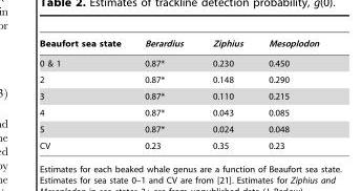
<table><thead><tr><td>Beaufort sea state</td><td>Berardius</td><td>Ziphius</td><td>Mesoplodon</td></tr></thead><tbody><tr><td>0 &amp; 1</td><td>0.87*</td><td>0.230</td><td>0.450</td></tr><tr><td>2</td><td>0.87*</td><td>0.148</td><td>0.290</td></tr><tr><td>3</td><td>0.87*</td><td>0.110</td><td>0.215</td></tr><tr><td>4</td><td>0.87*</td><td>0.043</td><td>0.085</td></tr><tr><td>5</td><td>0.87*</td><td>0.024</td><td>0.048</td></tr><tr><td>CV</td><td>0.23</td><td>0.35</td><td>0.23</td></tr></tbody></table>